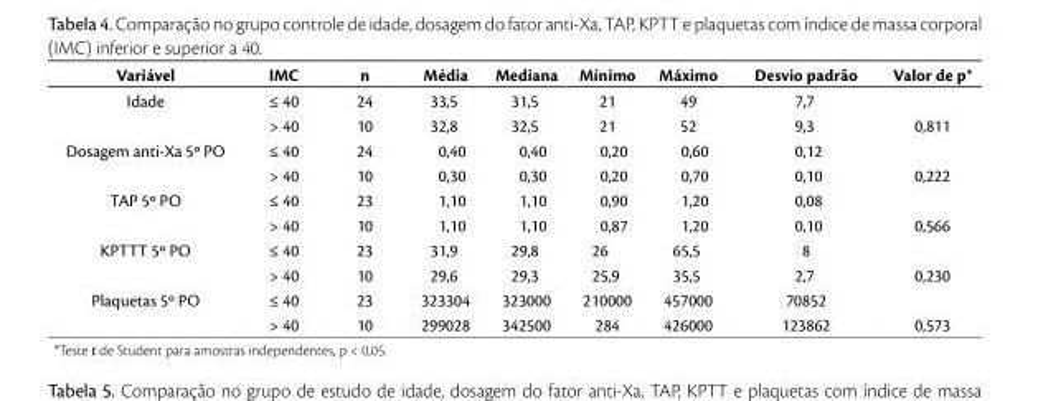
<table><thead><tr><td>Variável</td><td>IMC</td><td>n</td><td>Média</td><td>Mediana</td><td>Mínimo</td><td>Máximo</td><td>Desvio padrão</td><td>Valor de p*</td></tr></thead><tbody><tr><td rowspan="2">Idade</td><td>≤ 40</td><td>24</td><td>33,5</td><td>31,5</td><td>21</td><td>49</td><td>7,7</td><td></td></tr><tr><td>&gt; 40</td><td>10</td><td>32,8</td><td>32,5</td><td>21</td><td>52</td><td>9,3</td><td>0,811</td></tr><tr><td rowspan="2">Dosagem anti-Xa 5º PO</td><td>≤ 40</td><td>24</td><td>0,40</td><td>0,40</td><td>0,20</td><td>0,60</td><td>0,12</td><td></td></tr><tr><td>&gt; 40</td><td>10</td><td>0,30</td><td>0,30</td><td>0,20</td><td>0,70</td><td>0,10</td><td>0,222</td></tr><tr><td rowspan="2">TAP 5º PO</td><td>≤ 40</td><td>23</td><td>1,10</td><td>1,10</td><td>0,90</td><td>1,20</td><td>0,08</td><td></td></tr><tr><td>&gt; 40</td><td>10</td><td>1,10</td><td>1,10</td><td>0,87</td><td>1,20</td><td>0,10</td><td>0,566</td></tr><tr><td rowspan="2">KPTTT 5º PO</td><td>≤ 40</td><td>23</td><td>31,9</td><td>29,8</td><td>26</td><td>65,5</td><td>8</td><td></td></tr><tr><td>&gt; 40</td><td>10</td><td>29,6</td><td>29,3</td><td>25,9</td><td>35,5</td><td>2,7</td><td>0,230</td></tr><tr><td rowspan="2">Plaquetas 5º PO</td><td>≤ 40</td><td>23</td><td>323304</td><td>323000</td><td>210000</td><td>457000</td><td>70852</td><td></td></tr><tr><td>&gt; 40</td><td>10</td><td>299028</td><td>342500</td><td>284</td><td>426000</td><td>123862</td><td>0,573</td></tr></tbody></table>